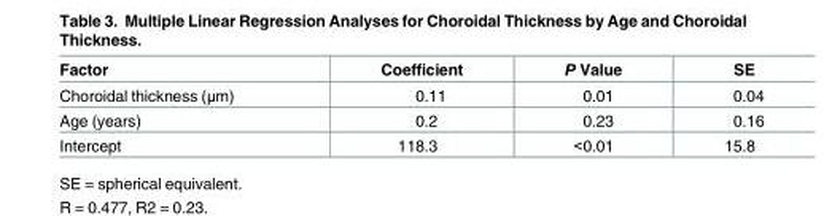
<table><thead><tr><td>Factor</td><td>Coefficient</td><td>P Value</td><td>SE</td></tr></thead><tbody><tr><td>Choroidal thickness (μm)</td><td>0.11</td><td>0.01</td><td>0.04</td></tr><tr><td>Age (years)</td><td>0.2</td><td>0.23</td><td>0.16</td></tr><tr><td>Intercept</td><td>118.3</td><td>&lt;0.01</td><td>15.8</td></tr></tbody></table>